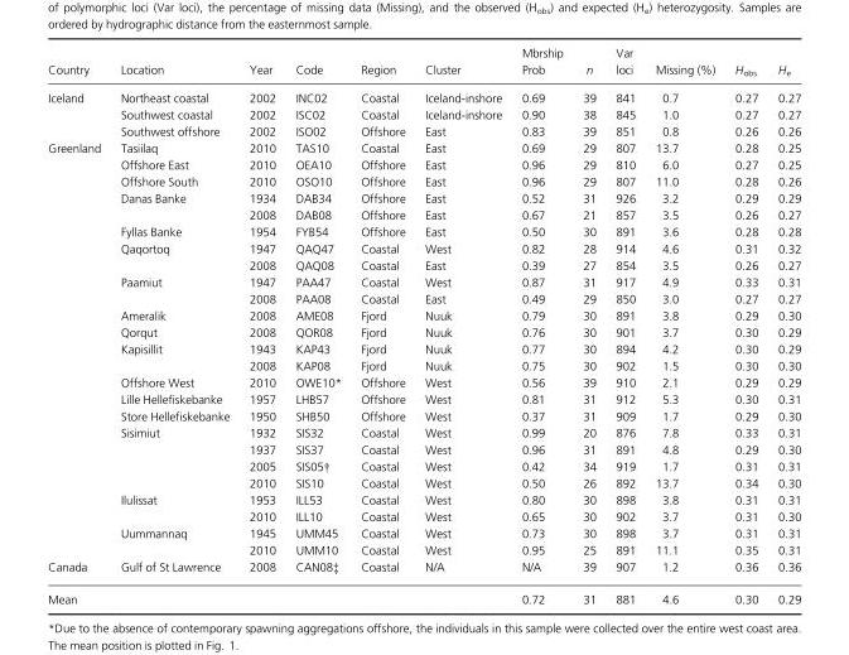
<table><thead><tr><td>Country</td><td>Location</td><td>Year</td><td>Code</td><td>Region</td><td>Cluster</td><td>Mbrship Prob</td><td>n</td><td>Var loci</td><td>Missing (%)</td><td>H<sub>obs</sub></td><td>H<sub>e</sub></td></tr></thead><tbody><tr><td rowspan="3">Iceland</td><td>Northeast coastal</td><td>2002</td><td>INC02</td><td>Coastal</td><td>Iceland-inshore</td><td>0.69</td><td>39</td><td>841</td><td>0.7</td><td>0.27</td><td>0.27</td></tr><tr><td>Southwest coastal</td><td>2002</td><td>ISC02</td><td>Coastal</td><td>Iceland-inshore</td><td>0.90</td><td>38</td><td>845</td><td>1.0</td><td>0.27</td><td>0.27</td></tr><tr><td>Southwest offshore</td><td>2002</td><td>ISO02</td><td>Offshore</td><td>East</td><td>0.83</td><td>39</td><td>851</td><td>0.8</td><td>0.26</td><td>0.26</td></tr><tr><td rowspan="25">Greenland</td><td>Tasiilaq</td><td>2010</td><td>TAS10</td><td>Coastal</td><td>East</td><td>0.69</td><td>29</td><td>807</td><td>13.7</td><td>0.28</td><td>0.25</td></tr><tr><td>Offshore East</td><td>2010</td><td>OEA10</td><td>Offshore</td><td>East</td><td>0.96</td><td>29</td><td>810</td><td>6.0</td><td>0.27</td><td>0.25</td></tr><tr><td>Offshore South</td><td>2010</td><td>OSO10</td><td>Offshore</td><td>East</td><td>0.96</td><td>29</td><td>807</td><td>11.0</td><td>0.28</td><td>0.26</td></tr><tr><td rowspan="2">Danas Banke</td><td>1934</td><td>DAB34</td><td>Offshore</td><td>East</td><td>0.52</td><td>31</td><td>926</td><td>3.2</td><td>0.29</td><td>0.29</td></tr><tr><td>2008</td><td>DAB08</td><td>Offshore</td><td>East</td><td>0.67</td><td>21</td><td>857</td><td>3.5</td><td>0.26</td><td>0.27</td></tr><tr><td>Fyllas Banke</td><td>1954</td><td>FYB54</td><td>Offshore</td><td>East</td><td>0.50</td><td>30</td><td>891</td><td>3.6</td><td>0.28</td><td>0.28</td></tr><tr><td rowspan="2">Qaqortoq</td><td>1947</td><td>QAQ47</td><td>Coastal</td><td>West</td><td>0.82</td><td>28</td><td>914</td><td>4.6</td><td>0.31</td><td>0.32</td></tr><tr><td>2008</td><td>QAQ08</td><td>Coastal</td><td>East</td><td>0.39</td><td>27</td><td>854</td><td>3.5</td><td>0.26</td><td>0.27</td></tr><tr><td rowspan="2">Paamiut</td><td>1947</td><td>PAA47</td><td>Coastal</td><td>West</td><td>0.87</td><td>31</td><td>917</td><td>4.9</td><td>0.33</td><td>0.31</td></tr><tr><td>2008</td><td>PAA08</td><td>Coastal</td><td>East</td><td>0.49</td><td>29</td><td>850</td><td>3.0</td><td>0.27</td><td>0.27</td></tr><tr><td>Ameralik</td><td>2008</td><td>AME08</td><td>Fjord</td><td>Nuuk</td><td>0.79</td><td>30</td><td>891</td><td>3.8</td><td>0.29</td><td>0.30</td></tr><tr><td>Qorqut</td><td>2008</td><td>QOR08</td><td>Fjord</td><td>Nuuk</td><td>0.76</td><td>30</td><td>901</td><td>3.7</td><td>0.30</td><td>0.29</td></tr><tr><td rowspan="2">Kapisillit</td><td>1943</td><td>KAP43</td><td>Fjord</td><td>Nuuk</td><td>0.77</td><td>30</td><td>894</td><td>4.2</td><td>0.30</td><td>0.29</td></tr><tr><td>2008</td><td>KAP08</td><td>Fjord</td><td>Nuuk</td><td>0.75</td><td>30</td><td>902</td><td>1.5</td><td>0.30</td><td>0.30</td></tr><tr><td>Offshore West</td><td>2010</td><td>OWE10*</td><td>Offshore</td><td>West</td><td>0.56</td><td>39</td><td>910</td><td>2.1</td><td>0.29</td><td>0.29</td></tr><tr><td>Lille Hellefiskebanke</td><td>1957</td><td>LHB57</td><td>Offshore</td><td>West</td><td>0.81</td><td>31</td><td>912</td><td>5.3</td><td>0.30</td><td>0.31</td></tr><tr><td>Store Hellefiskebanke</td><td>1950</td><td>SHB50</td><td>Offshore</td><td>West</td><td>0.37</td><td>31</td><td>909</td><td>1.7</td><td>0.29</td><td>0.30</td></tr><tr><td rowspan="4">Sisimiut</td><td>1932</td><td>SIS32</td><td>Coastal</td><td>West</td><td>0.99</td><td>20</td><td>876</td><td>7.8</td><td>0.33</td><td>0.31</td></tr><tr><td>1937</td><td>SIS37</td><td>Coastal</td><td>West</td><td>0.96</td><td>31</td><td>891</td><td>4.8</td><td>0.29</td><td>0.30</td></tr><tr><td>2005</td><td>SIS05†</td><td>Coastal</td><td>West</td><td>0.42</td><td>34</td><td>919</td><td>1.7</td><td>0.31</td><td>0.31</td></tr><tr><td>2010</td><td>SIS10</td><td>Coastal</td><td>West</td><td>0.50</td><td>26</td><td>892</td><td>13.7</td><td>0.34</td><td>0.30</td></tr><tr><td rowspan="2">Ilulissat</td><td>1953</td><td>ILL53</td><td>Coastal</td><td>West</td><td>0.80</td><td>30</td><td>898</td><td>3.8</td><td>0.31</td><td>0.31</td></tr><tr><td>2010</td><td>ILL10</td><td>Coastal</td><td>West</td><td>0.65</td><td>30</td><td>902</td><td>3.7</td><td>0.31</td><td>0.30</td></tr><tr><td rowspan="2">Uummannaq</td><td>1945</td><td>UMM45</td><td>Coastal</td><td>West</td><td>0.73</td><td>30</td><td>898</td><td>3.7</td><td>0.31</td><td>0.31</td></tr><tr><td>2010</td><td>UMM10</td><td>Coastal</td><td>West</td><td>0.95</td><td>25</td><td>891</td><td>11.1</td><td>0.35</td><td>0.31</td></tr><tr><td>Canada</td><td>Gulf of St Lawrence</td><td>2008</td><td>CAN08‡</td><td>Coastal</td><td>N/A</td><td>N/A</td><td>39</td><td>907</td><td>1.2</td><td>0.36</td><td>0.36</td></tr><tr><td>Mean</td><td></td><td></td><td></td><td></td><td></td><td>0.72</td><td>31</td><td>881</td><td>4.6</td><td>0.30</td><td>0.29</td></tr></tbody></table>